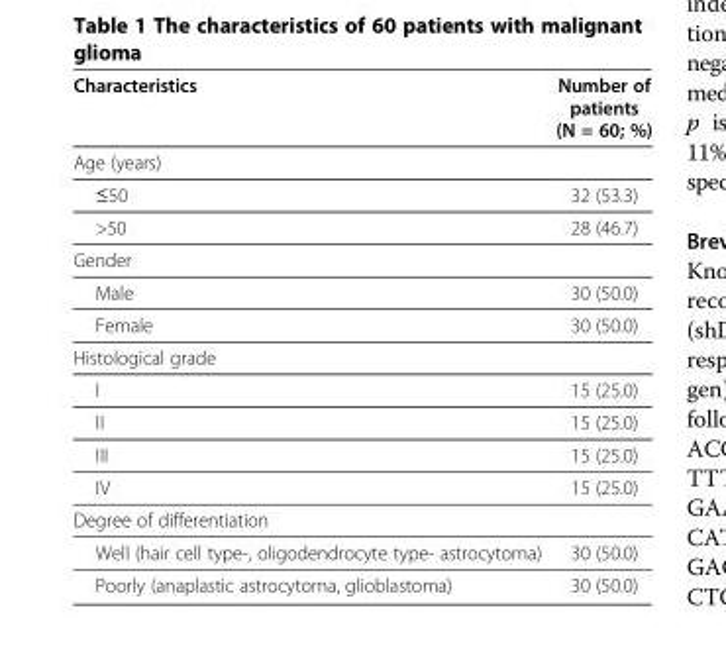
<table><thead><tr><td>Characteristics</td><td>Number of patients (N = 60; %)</td></tr></thead><tbody><tr><td colspan="2">Age (years)</td></tr><tr><td>≤50</td><td>32 (53.3)</td></tr><tr><td>&gt;50</td><td>28 (46.7)</td></tr><tr><td colspan="2">Gender</td></tr><tr><td>Male</td><td>30 (50.0)</td></tr><tr><td>Female</td><td>30 (50.0)</td></tr><tr><td colspan="2">Histological grade</td></tr><tr><td>I</td><td>15 (25.0)</td></tr><tr><td>II</td><td>15 (25.0)</td></tr><tr><td>III</td><td>15 (25.0)</td></tr><tr><td>IV</td><td>15 (25.0)</td></tr><tr><td colspan="2">Degree of differentiation</td></tr><tr><td>Well (hair cell type-, oligodendrocyte type- astrocytoma)</td><td>30 (50.0)</td></tr><tr><td>Poorly (anaplastic astrocytoma, glioblastoma)</td><td>30 (50.0)</td></tr></tbody></table>